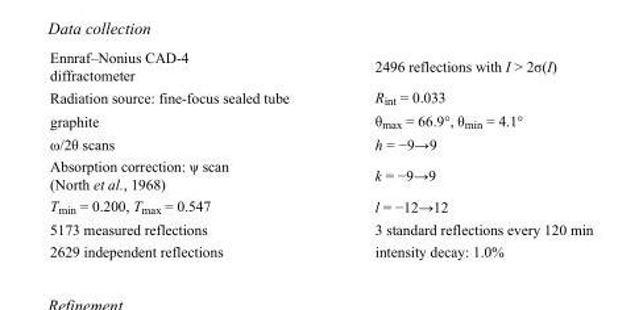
<table><tbody><tr><td>Ennraf–Nonius CAD-4 diffractometer</td><td>2496 reflections with I &gt; 2σ(I)</td></tr><tr><td>Radiation source: fine-focus sealed tube</td><td>R<sub>int</sub> = 0.033</td></tr><tr><td>graphite</td><td>θ<sub>max</sub> = 66.9°, θ<sub>min</sub> = 4.1°</td></tr><tr><td>ω/2θ scans</td><td>h = −9→9</td></tr><tr><td>Absorption correction: ψ scan (North et al., 1968)</td><td>k = −9→9</td></tr><tr><td>T<sub>min</sub> = 0.200, T<sub>max</sub> = 0.547</td><td>l = −12→12</td></tr><tr><td>5173 measured reflections</td><td>3 standard reflections every 120 min</td></tr><tr><td>2629 independent reflections</td><td>intensity decay: 1.0%</td></tr></tbody></table>